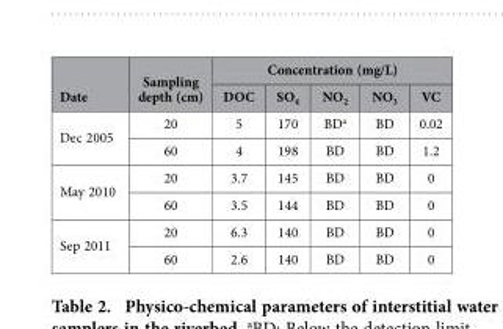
<table><thead><tr><td rowspan="2">Date</td><td rowspan="2">Sampling depth (cm)</td><td colspan="5">Concentration (mg/L)</td></tr><tr><td>DOC</td><td>SO<sub>4</sub></td><td>NO<sub>2</sub></td><td>NO<sub>3</sub></td><td>VC</td></tr></thead><tbody><tr><td rowspan="2">Dec 2005</td><td>20</td><td>5</td><td>170</td><td>BD<sup>a</sup></td><td>BD</td><td>0.02</td></tr><tr><td>60</td><td>4</td><td>198</td><td>BD</td><td>BD</td><td>1.2</td></tr><tr><td rowspan="2">May 2010</td><td>20</td><td>3.7</td><td>145</td><td>BD</td><td>BD</td><td>0</td></tr><tr><td>60</td><td>3.5</td><td>144</td><td>BD</td><td>BD</td><td>0</td></tr><tr><td rowspan="2">Sep 2011</td><td>20</td><td>6.3</td><td>140</td><td>BD</td><td>BD</td><td>0</td></tr><tr><td>60</td><td>2.6</td><td>140</td><td>BD</td><td>BD</td><td>0</td></tr></tbody></table>